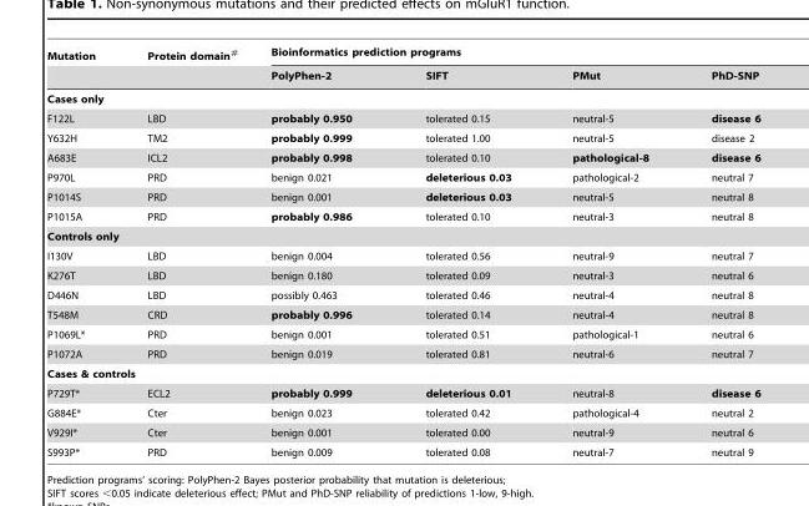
<table><thead><tr><td rowspan="2">Mutation</td><td rowspan="2">Protein domain#</td><td colspan="4">Bioinformatics prediction programs</td></tr><tr><td>PolyPhen-2</td><td>SIFT</td><td>PMut</td><td>PhD-SNP</td></tr></thead><tbody><tr><td colspan="6">Cases only</td></tr><tr><td>F122L</td><td>LBD</td><td>probably 0.950</td><td>tolerated 0.15</td><td>neutral-5</td><td>disease 6</td></tr><tr><td>Y632H</td><td>TM2</td><td>probably 0.999</td><td>tolerated 1.00</td><td>neutral-5</td><td>disease 2</td></tr><tr><td>A683E</td><td>ICL2</td><td>probably 0.998</td><td>tolerated 0.10</td><td>pathological-8</td><td>disease 6</td></tr><tr><td>P970L</td><td>PRD</td><td>benign 0.021</td><td>deleterious 0.03</td><td>pathological-2</td><td>neutral 7</td></tr><tr><td>P1014S</td><td>PRD</td><td>benign 0.001</td><td>deleterious 0.03</td><td>neutral-5</td><td>neutral 8</td></tr><tr><td>P1015A</td><td>PRD</td><td>probably 0.986</td><td>tolerated 0.10</td><td>neutral-3</td><td>neutral 8</td></tr><tr><td colspan="6">Controls only</td></tr><tr><td>I130V</td><td>LBD</td><td>benign 0.004</td><td>tolerated 0.56</td><td>neutral-9</td><td>neutral 7</td></tr><tr><td>K276T</td><td>LBD</td><td>benign 0.180</td><td>tolerated 0.09</td><td>neutral-3</td><td>neutral 6</td></tr><tr><td>D446N</td><td>LBD</td><td>possibly 0.463</td><td>tolerated 0.46</td><td>neutral-4</td><td>neutral 8</td></tr><tr><td>T548M</td><td>CRD</td><td>probably 0.996</td><td>tolerated 0.14</td><td>neutral-4</td><td>neutral 8</td></tr><tr><td>P1069L*</td><td>PRD</td><td>benign 0.001</td><td>tolerated 0.51</td><td>pathological-1</td><td>neutral 6</td></tr><tr><td>P1072A</td><td>PRD</td><td>benign 0.019</td><td>tolerated 0.81</td><td>neutral-6</td><td>neutral 7</td></tr><tr><td colspan="6">Cases &amp; controls</td></tr><tr><td>P729T*</td><td>ECL2</td><td>probably 0.999</td><td>deleterious 0.01</td><td>neutral-8</td><td>disease 6</td></tr><tr><td>G884E*</td><td>Cter</td><td>benign 0.023</td><td>tolerated 0.42</td><td>pathological-4</td><td>neutral 2</td></tr><tr><td>V929I*</td><td>Cter</td><td>benign 0.001</td><td>tolerated 0.00</td><td>neutral-9</td><td>neutral 6</td></tr><tr><td>S993P*</td><td>PRD</td><td>benign 0.009</td><td>tolerated 0.08</td><td>neutral-7</td><td>neutral 9</td></tr></tbody></table>